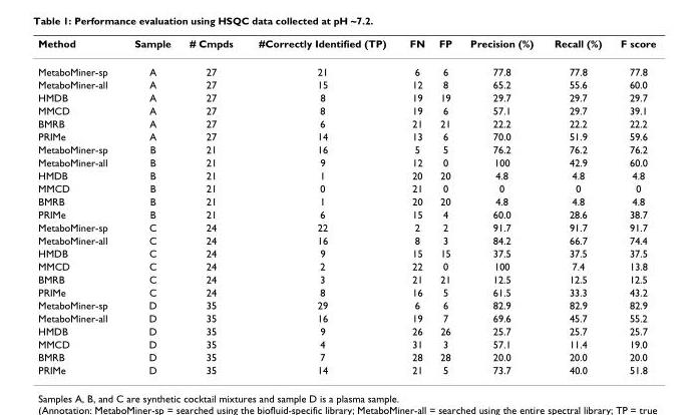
<table><thead><tr><td>Method</td><td>Sample</td><td># Cmpds</td><td>#Correctly Identified (TP)</td><td>FN</td><td>FP</td><td>Precision (%)</td><td>Recall (%)</td><td>F score</td></tr></thead><tbody><tr><td>MetaboMiner-sp</td><td>A</td><td>27</td><td>21</td><td>6</td><td>6</td><td>77.8</td><td>77.8</td><td>77.8</td></tr><tr><td>MetaboMiner-all</td><td>A</td><td>27</td><td>15</td><td>12</td><td>8</td><td>65.2</td><td>55.6</td><td>60.0</td></tr><tr><td>HMDB</td><td>A</td><td>27</td><td>8</td><td>19</td><td>19</td><td>29.7</td><td>29.7</td><td>29.7</td></tr><tr><td>MMCD</td><td>A</td><td>27</td><td>8</td><td>19</td><td>6</td><td>57.1</td><td>29.7</td><td>39.1</td></tr><tr><td>BMRB</td><td>A</td><td>27</td><td>6</td><td>21</td><td>21</td><td>22.2</td><td>22.2</td><td>22.2</td></tr><tr><td>PRIMe</td><td>A</td><td>27</td><td>14</td><td>13</td><td>6</td><td>70.0</td><td>51.9</td><td>59.6</td></tr><tr><td>MetaboMiner-sp</td><td>B</td><td>21</td><td>16</td><td>5</td><td>5</td><td>76.2</td><td>76.2</td><td>76.2</td></tr><tr><td>MetaboMiner-all</td><td>B</td><td>21</td><td>9</td><td>12</td><td>0</td><td>100</td><td>42.9</td><td>60.0</td></tr><tr><td>HMDB</td><td>B</td><td>21</td><td>1</td><td>20</td><td>20</td><td>4.8</td><td>4.8</td><td>4.8</td></tr><tr><td>MMCD</td><td>B</td><td>21</td><td>0</td><td>21</td><td>0</td><td>0</td><td>0</td><td>0</td></tr><tr><td>BMRB</td><td>B</td><td>21</td><td>1</td><td>20</td><td>20</td><td>4.8</td><td>4.8</td><td>4.8</td></tr><tr><td>PRIMe</td><td>B</td><td>21</td><td>6</td><td>15</td><td>4</td><td>60.0</td><td>28.6</td><td>38.7</td></tr><tr><td>MetaboMiner-sp</td><td>C</td><td>24</td><td>22</td><td>2</td><td>2</td><td>91.7</td><td>91.7</td><td>91.7</td></tr><tr><td>MetaboMiner-all</td><td>C</td><td>24</td><td>16</td><td>8</td><td>3</td><td>84.2</td><td>66.7</td><td>74.4</td></tr><tr><td>HMDB</td><td>C</td><td>24</td><td>9</td><td>15</td><td>15</td><td>37.5</td><td>37.5</td><td>37.5</td></tr><tr><td>MMCD</td><td>C</td><td>24</td><td>2</td><td>22</td><td>0</td><td>100</td><td>7.4</td><td>13.8</td></tr><tr><td>BMRB</td><td>C</td><td>24</td><td>3</td><td>21</td><td>21</td><td>12.5</td><td>12.5</td><td>12.5</td></tr><tr><td>PRIMe</td><td>C</td><td>24</td><td>8</td><td>16</td><td>5</td><td>61.5</td><td>33.3</td><td>43.2</td></tr><tr><td>MetaboMiner-sp</td><td>D</td><td>35</td><td>29</td><td>6</td><td>6</td><td>82.9</td><td>82.9</td><td>82.9</td></tr><tr><td>MetaboMiner-all</td><td>D</td><td>35</td><td>16</td><td>19</td><td>7</td><td>69.6</td><td>45.7</td><td>55.2</td></tr><tr><td>HMDB</td><td>D</td><td>35</td><td>9</td><td>26</td><td>26</td><td>25.7</td><td>25.7</td><td>25.7</td></tr><tr><td>MMCD</td><td>D</td><td>35</td><td>4</td><td>31</td><td>3</td><td>57.1</td><td>11.4</td><td>19.0</td></tr><tr><td>BMRB</td><td>D</td><td>35</td><td>7</td><td>28</td><td>28</td><td>20.0</td><td>20.0</td><td>20.0</td></tr><tr><td>PRIMe</td><td>D</td><td>35</td><td>14</td><td>21</td><td>5</td><td>73.7</td><td>40.0</td><td>51.8</td></tr></tbody></table>